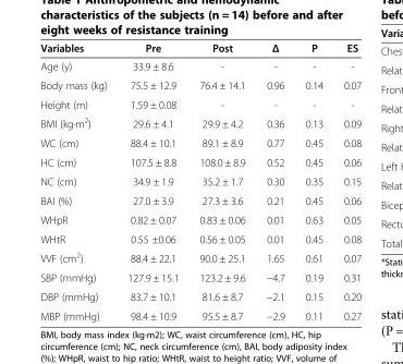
<table><thead><tr><td>Variables</td><td>Pre</td><td>Post</td><td>Δ</td><td>P</td><td>ES</td></tr></thead><tbody><tr><td>Age (y)</td><td>33.9 ± 8.6</td><td>-</td><td>-</td><td>-</td><td>-</td></tr><tr><td>Body mass (kg)</td><td>75.5 ± 12.9</td><td>76.4 ± 14.1</td><td>0.96</td><td>0.14</td><td>0.07</td></tr><tr><td>Height (m)</td><td>1.59 ± 0.08</td><td>-</td><td>-</td><td>-</td><td>-</td></tr><tr><td>BMI (kg·m<sup>2</sup>)</td><td>29.6 ± 4.1</td><td>29.9 ± 4.2</td><td>0.36</td><td>0.13</td><td>0.09</td></tr><tr><td>WC (cm)</td><td>88.4 ± 10.1</td><td>89.1 ± 8.9</td><td>0.77</td><td>0.45</td><td>0.08</td></tr><tr><td>HC (cm)</td><td>107.5 ± 8.8</td><td>108.0 ± 8.9</td><td>0.52</td><td>0.45</td><td>0.06</td></tr><tr><td>NC (cm)</td><td>34.9 ± 1.9</td><td>35.2 ± 1.7</td><td>0.30</td><td>0.35</td><td>0.15</td></tr><tr><td>BAI (%)</td><td>27.0 ± 3.9</td><td>27.3 ± 3.6</td><td>0.21</td><td>0.45</td><td>0.06</td></tr><tr><td>WHpR</td><td>0.82 ± 0.07</td><td>0.83 ± 0.06</td><td>0.01</td><td>0.63</td><td>0.05</td></tr><tr><td>WHtR</td><td>0.55 ±0.06</td><td>0.56 ± 0.05</td><td>0.01</td><td>0.45</td><td>0.08</td></tr><tr><td>VVF (cm<sup>2</sup>)</td><td>88.4 ± 22.1</td><td>90.0 ± 25.1</td><td>1.65</td><td>0.61</td><td>0.07</td></tr><tr><td>SBP (mmHg)</td><td>127.9 ± 15.1</td><td>123.2 ± 9.6</td><td>−4.7</td><td>0.19</td><td>0.31</td></tr><tr><td>DBP (mmHg)</td><td>83.7 ± 10.1</td><td>81.6 ± 8.7</td><td>−2.1</td><td>0.15</td><td>0.20</td></tr><tr><td>MBP (mmHg)</td><td>98.4 ± 10.9</td><td>95.5 ± 8.7</td><td>−2.9</td><td>0.11</td><td>0.27</td></tr></tbody></table>